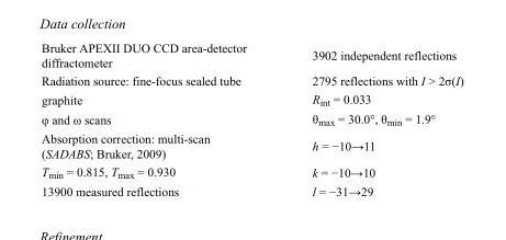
<table><tbody><tr><td>Bruker APEXII DUO CCD area-detector diffractometer</td><td>3902 independent reflections</td></tr><tr><td>Radiation source: fine-focus sealed tube</td><td>2795 reflections with I &gt; 2σ(I)</td></tr><tr><td>graphite</td><td>R<sub>int</sub> = 0.033</td></tr><tr><td>φ and ω scans</td><td>θ<sub>max</sub> = 30.0°, θ<sub>min</sub> = 1.9°</td></tr><tr><td>Absorption correction: multi-scan (SADABS; Bruker, 2009)</td><td>h = −10→11</td></tr><tr><td>T<sub>min</sub> = 0.815, T<sub>max</sub> = 0.930</td><td>k = −10→10</td></tr><tr><td>13900 measured reflections</td><td>l = −31→29</td></tr></tbody></table>